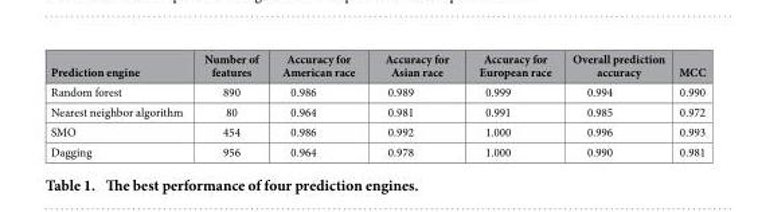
<table><thead><tr><td>Prediction engine</td><td>Number of features</td><td>Accuracy for American race</td><td>Accuracy for Asian race</td><td>Accuracy for European race</td><td>Overall prediction accuracy</td><td>MCC</td></tr></thead><tbody><tr><td>Random forest</td><td>890</td><td>0.986</td><td>0.989</td><td>0.999</td><td>0.994</td><td>0.990</td></tr><tr><td>Nearest neighbor algorithm</td><td>80</td><td>0.964</td><td>0.981</td><td>0.991</td><td>0.985</td><td>0.972</td></tr><tr><td>SMO</td><td>454</td><td>0.986</td><td>0.992</td><td>1.000</td><td>0.996</td><td>0.993</td></tr><tr><td>Dagging</td><td>956</td><td>0.964</td><td>0.978</td><td>1.000</td><td>0.990</td><td>0.981</td></tr></tbody></table>